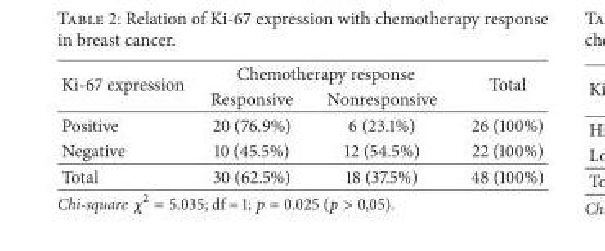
<table><thead><tr><td rowspan="2">Ki-67 expression</td><td colspan="2">Chemotherapy response</td><td rowspan="2">Total</td></tr><tr><td>Responsive</td><td>Nonresponsive</td></tr></thead><tbody><tr><td>Positive</td><td>20 (76.9%)</td><td>6 (23.1%)</td><td>26 (100%)</td></tr><tr><td>Negative</td><td>10 (45.5%)</td><td>12 (54.5%)</td><td>22 (100%)</td></tr><tr><td>Total</td><td>30 (62.5%)</td><td>18 (37.5%)</td><td>48 (100%)</td></tr></tbody></table>